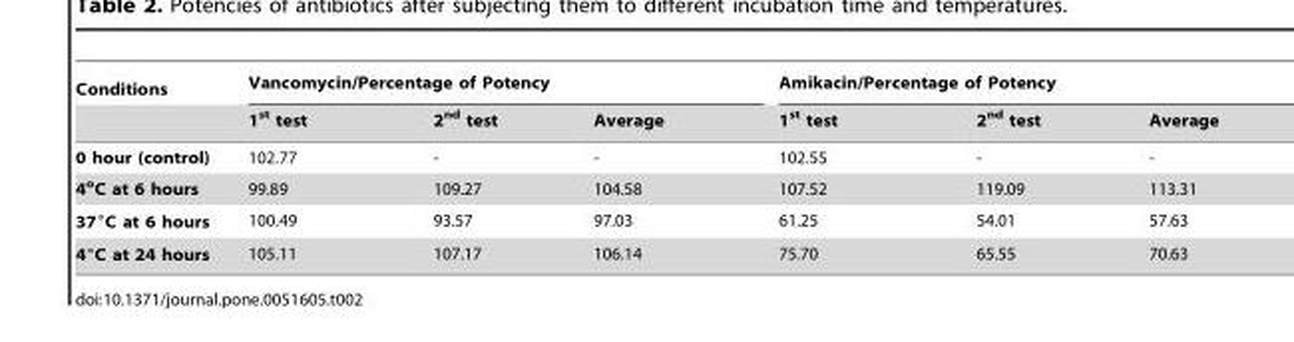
<table><thead><tr><td rowspan="2">Conditions</td><td colspan="3">Vancomycin/Percentage of Potency</td><td colspan="3">Amikacin/Percentage of Potency</td></tr><tr><td>1<sup>st</sup> test</td><td>2<sup>nd</sup> test</td><td>Average</td><td>1<sup>st</sup> test</td><td>2<sup>nd</sup> test</td><td>Average</td></tr></thead><tbody><tr><td>0 hour (control)</td><td>102.77</td><td>-</td><td>-</td><td>102.55</td><td>-</td><td>-</td></tr><tr><td>4<sup>o</sup>C at 6 hours</td><td>99.89</td><td>109.27</td><td>104.58</td><td>107.52</td><td>119.09</td><td>113.31</td></tr><tr><td>37°C at 6 hours</td><td>100.49</td><td>93.57</td><td>97.03</td><td>61.25</td><td>54.01</td><td>57.63</td></tr><tr><td>4°C at 24 hours</td><td>105.11</td><td>107.17</td><td>106.14</td><td>75.70</td><td>65.55</td><td>70.63</td></tr></tbody></table>